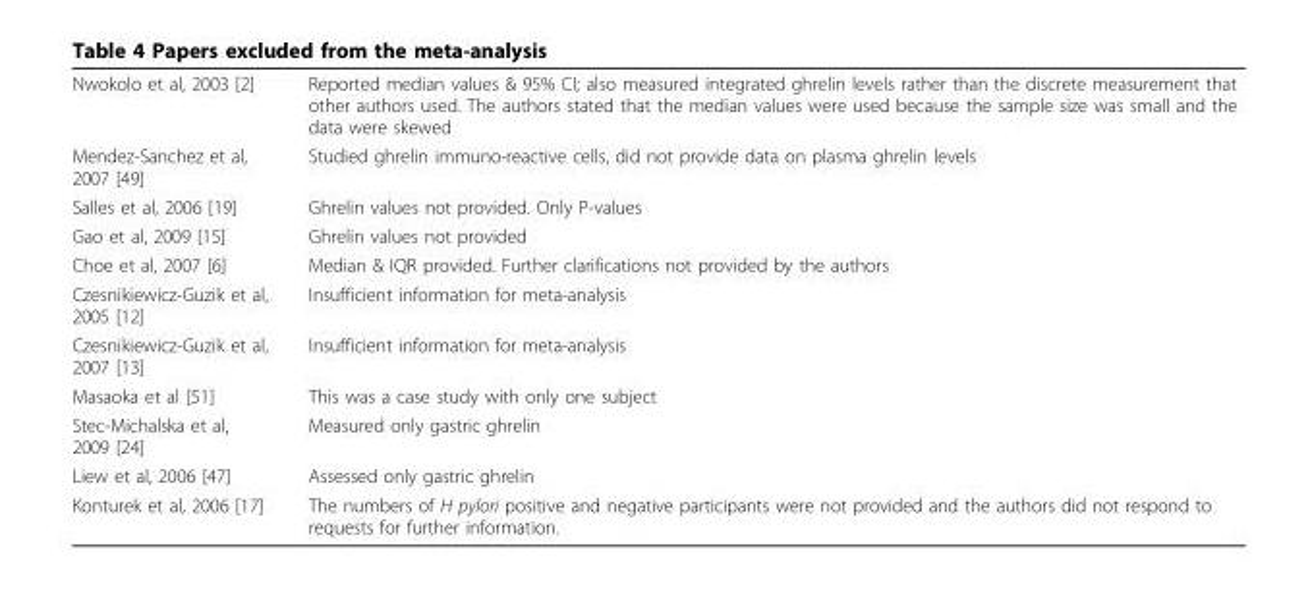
<table><tbody><tr><td>Nwokolo et al, 2003 [2]</td><td>Reported median values &amp; 95% CI; also measured integrated ghrelin levels rather than the discrete measurement that other authors used. The authors stated that the median values were used because the sample size was small and the data were skewed</td></tr><tr><td>Mendez-Sanchez et al, 2007 [49]</td><td>Studied ghrelin immuno-reactive cells, did not provide data on plasma ghrelin levels</td></tr><tr><td>Salles et al, 2006 [19]</td><td>Ghrelin values not provided. Only P-values</td></tr><tr><td>Gao et al, 2009 [15]</td><td>Ghrelin values not provided</td></tr><tr><td>Choe et al, 2007 [6]</td><td>Median &amp; IQR provided. Further clarifications not provided by the authors</td></tr><tr><td>Czesnikiewicz-Guzik et al, 2005 [12]</td><td>Insufficient information for meta-analysis</td></tr><tr><td>Czesnikiewicz-Guzik et al, 2007 [13]</td><td>Insufficient information for meta-analysis</td></tr><tr><td>Masaoka et al [51]</td><td>This was a case study with only one subject</td></tr><tr><td>Stec-Michalska et al, 2009 [24]</td><td>Measured only gastric ghrelin</td></tr><tr><td>Liew et al, 2006 [47]</td><td>Assessed only gastric ghrelin</td></tr><tr><td>Konturek et al, 2006 [17]</td><td>The numbers of H pylori positive and negative participants were not provided and the authors did not respond to requests for further information.</td></tr></tbody></table>